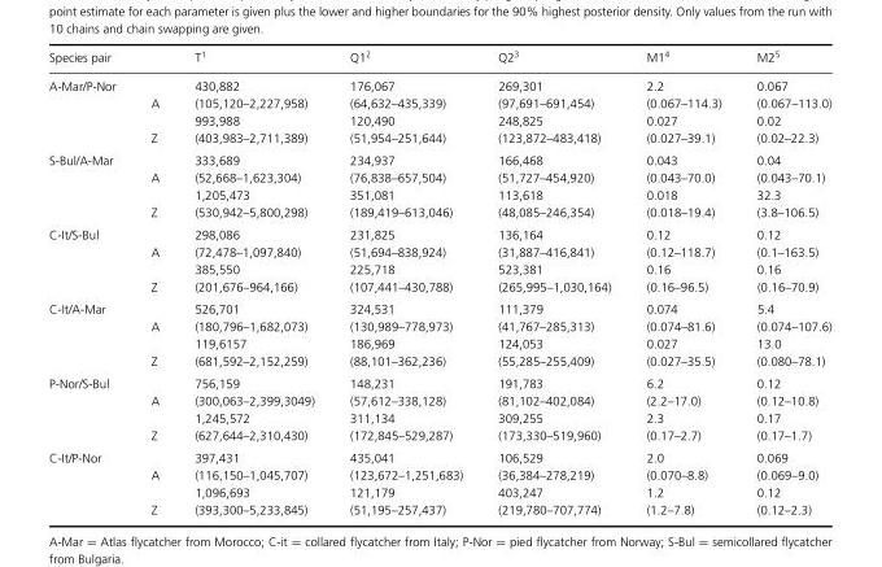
<table><thead><tr><td>Species pair</td><td></td><td>T<sup>1</sup></td><td>Q1<sup>2</sup></td><td>Q2<sup>3</sup></td><td>M1<sup>4</sup></td><td>M2<sup>5</sup></td></tr></thead><tbody><tr><td rowspan="4">A-Mar/P-Nor</td><td></td><td>430,882</td><td>176,067</td><td>269,301</td><td>2.2</td><td>0.067</td></tr><tr><td>A</td><td>(105,120–2,227,958)</td><td>(64,632–435,339)</td><td>(97,691–691,454)</td><td>(0.067–114.3)</td><td>(0.067–113.0)</td></tr><tr><td></td><td>993,988</td><td>120,490</td><td>248,825</td><td>0.027</td><td>0.02</td></tr><tr><td>Z</td><td>(403,983–2,711,389)</td><td>(51,954–251,644)</td><td>(123,872–483,418)</td><td>(0.027–39.1)</td><td>(0.02–22.3)</td></tr><tr><td rowspan="4">S-Bul/A-Mar</td><td></td><td>333,689</td><td>234,937</td><td>166,468</td><td>0.043</td><td>0.04</td></tr><tr><td>A</td><td>(52,668–1,623,304)</td><td>(76,838–657,504)</td><td>(51,727–454,920)</td><td>(0.043–70.0)</td><td>(0.043–70.1)</td></tr><tr><td></td><td>1,205,473</td><td>351,081</td><td>113,618</td><td>0.018</td><td>32.3</td></tr><tr><td>Z</td><td>(530,942–5,800,298)</td><td>(189,419–613,046)</td><td>(48,085–246,354)</td><td>(0.018–19.4)</td><td>(3.8–106.5)</td></tr><tr><td rowspan="4">C-It/S-Bul</td><td></td><td>298,086</td><td>231,825</td><td>136,164</td><td>0.12</td><td>0.12</td></tr><tr><td>A</td><td>(72,478–1,097,840)</td><td>(51,694–838,924)</td><td>(31,887–416,841)</td><td>(0.12–118.7)</td><td>(0.1–163.5)</td></tr><tr><td></td><td>385,550</td><td>225,718</td><td>523,381</td><td>0.16</td><td>0.16</td></tr><tr><td>Z</td><td>(201,676–964,166)</td><td>(107,441–430,788)</td><td>(265,995–1,030,164)</td><td>(0.16–96.5)</td><td>(0.16–70.9)</td></tr><tr><td rowspan="4">C-It/A-Mar</td><td></td><td>526,701</td><td>324,531</td><td>111,379</td><td>0.074</td><td>5.4</td></tr><tr><td>A</td><td>(180,796–1,682,073)</td><td>(130,989–778,973)</td><td>(41,767–285,313)</td><td>(0.074–81.6)</td><td>(0.074–107.6)</td></tr><tr><td></td><td>119,6157</td><td>186,969</td><td>124,053</td><td>0.027</td><td>13.0</td></tr><tr><td>Z</td><td>(681,592–2,152,259)</td><td>(88,101–362,236)</td><td>(55,285–255,409)</td><td>(0.027–35.5)</td><td>(0.080–78.1)</td></tr><tr><td rowspan="4">P-Nor/S-Bul</td><td></td><td>756,159</td><td>148,231</td><td>191,783</td><td>6.2</td><td>0.12</td></tr><tr><td>A</td><td>(300,063–2,399,3049)</td><td>(57,612–338,128)</td><td>(81,102–402,084)</td><td>(2.2–17.0)</td><td>(0.12–10.8)</td></tr><tr><td></td><td>1,245,572</td><td>311,134</td><td>309,255</td><td>2.3</td><td>0.17</td></tr><tr><td>Z</td><td>(627,644–2,310,430)</td><td>(172,845–529,287)</td><td>(173,330–519,960)</td><td>(0.17–2.7)</td><td>(0.17–1.7)</td></tr><tr><td rowspan="4">C-It/P-Nor</td><td></td><td>397,431</td><td>435,041</td><td>106,529</td><td>2.0</td><td>0.069</td></tr><tr><td>A</td><td>(116,150–1,045,707)</td><td>(123,672–1,251,683)</td><td>(36,384–278,219)</td><td>(0.070–8.8)</td><td>(0.069–9.0)</td></tr><tr><td></td><td>1,096,693</td><td>121,179</td><td>403,247</td><td>1.2</td><td>0.12</td></tr><tr><td>Z</td><td>(393,300–5,233,845)</td><td>(51,195–257,437)</td><td>(219,780–707,774)</td><td>(1.2–7.8)</td><td>(0.12–2.3)</td></tr></tbody></table>